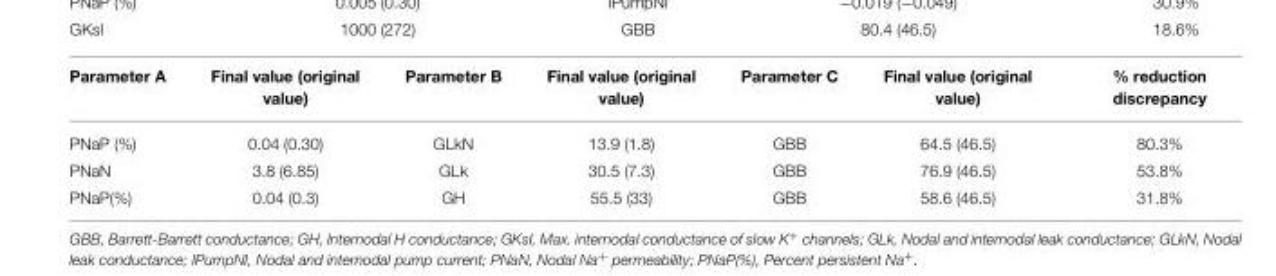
<table><thead><tr><td>Parameter A</td><td>Final value (original value)</td><td>Parameter B</td><td>Final value (original value)</td><td>Parameter C</td><td>Final value (original value)</td><td>% reduction discrepancy</td></tr></thead><tbody><tr><td>PNaP (%)</td><td>0.04 (0.30)</td><td>GLkN</td><td>13.9 (1.8)</td><td>GBB</td><td>64.5 (46.5)</td><td>80.3%</td></tr><tr><td>PNaN</td><td>3.8 (6.85)</td><td>GLk</td><td>30.5 (7.3)</td><td>GBB</td><td>76.9 (46.5)</td><td>53.8%</td></tr><tr><td>PNaP(%)</td><td>0.04 (0.3)</td><td>GH</td><td>55.5 (33)</td><td>GBB</td><td>58.6 (46.5)</td><td>31.8%</td></tr></tbody></table>